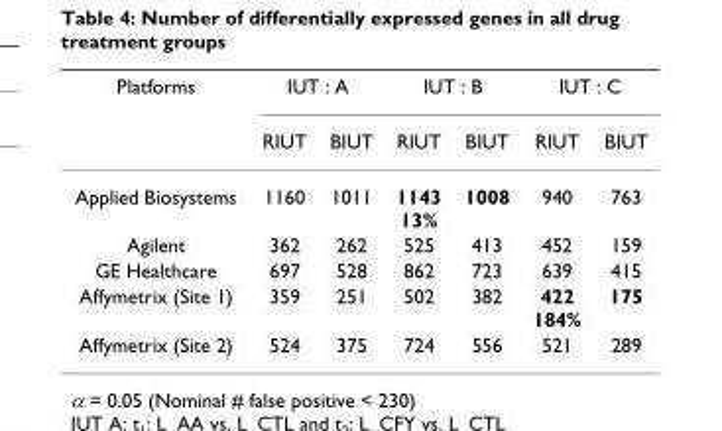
<table><thead><tr><td rowspan="2">Platforms</td><td colspan="2">IUT : A</td><td colspan="2">IUT : B</td><td colspan="2">IUT : C</td></tr><tr><td>RIUT</td><td>BIUT</td><td>RIUT</td><td>BIUT</td><td>RIUT</td><td>BIUT</td></tr></thead><tbody><tr><td>Applied Biosystems</td><td>1160</td><td>1011</td><td>1143 13%</td><td>1008</td><td>940</td><td>763</td></tr><tr><td>Agilent</td><td>362</td><td>262</td><td>525</td><td>413</td><td>452</td><td>159</td></tr><tr><td>GE Healthcare</td><td>697</td><td>528</td><td>862</td><td>723</td><td>639</td><td>415</td></tr><tr><td>Affymetrix (Site 1)</td><td>359</td><td>251</td><td>502</td><td>382</td><td>422 184%</td><td>175</td></tr><tr><td>Affymetrix (Site 2)</td><td>524</td><td>375</td><td>724</td><td>556</td><td>521</td><td>289</td></tr></tbody></table>